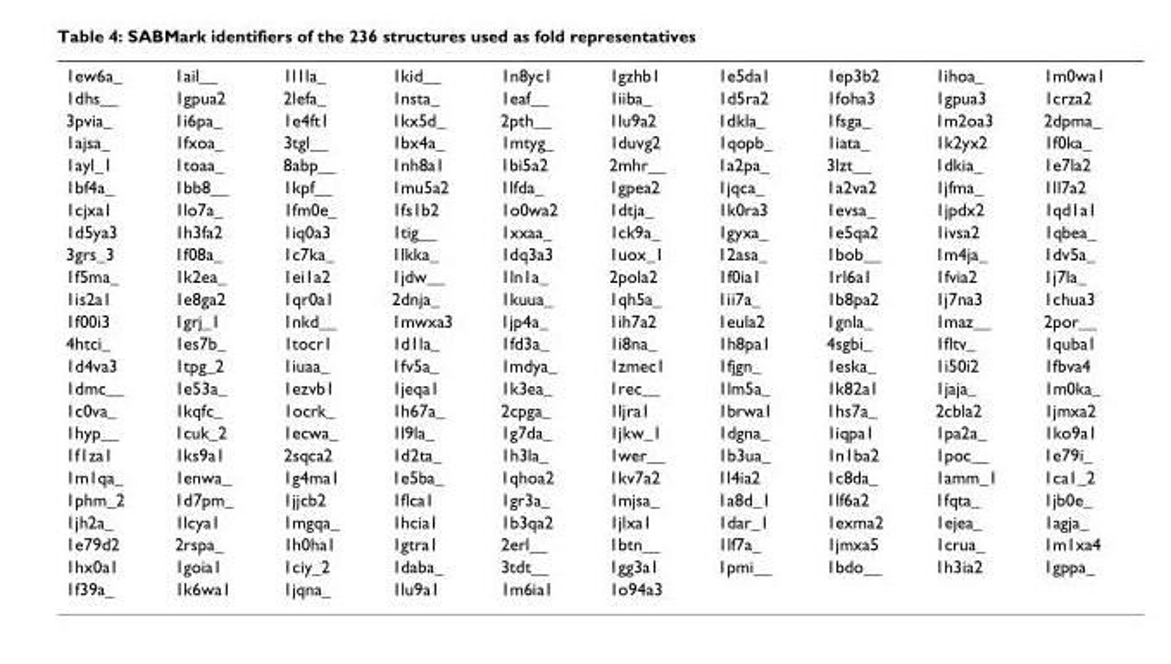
<table><tbody><tr><td>1ew6a_</td><td>1ail__</td><td>1l1la_</td><td>1kid__</td><td>1n8yc1</td><td>1gzhb1</td><td>1e5da1</td><td>1ep3b2</td><td>1ihoa_</td><td>1m0wa1</td></tr><tr><td>1dhs__</td><td>1gpua2</td><td>2lefa_</td><td>1nsta_</td><td>1eaf__</td><td>1iiba_</td><td>1d5ra2</td><td>1foha3</td><td>1gpua3</td><td>1crza2</td></tr><tr><td>3pvia_</td><td>1i6pa_</td><td>1e4ft1</td><td>1kx5d_</td><td>2pth__</td><td>1lu9a2</td><td>1dkla_</td><td>1fsga_</td><td>1m2oa3</td><td>2dpma_</td></tr><tr><td>1ajsa_</td><td>1fxoa_</td><td>3tgl__</td><td>1bx4a_</td><td>1mtyg_</td><td>1duvg2</td><td>1qopb_</td><td>1iata_</td><td>1k2yx2</td><td>1f0ka_</td></tr><tr><td>1ayl_1</td><td>1toaa_</td><td>8abp__</td><td>1nh8a1</td><td>1bi5a2</td><td>2mhr__</td><td>1a2pa_</td><td>3lzt__</td><td>1dkia_</td><td>1e7la2</td></tr><tr><td>1bf4a_</td><td>1bb8__</td><td>1kpf__</td><td>1mu5a2</td><td>1lfda_</td><td>1gpea2</td><td>1jqca_</td><td>1a2va2</td><td>1jfma_</td><td>1ll7a2</td></tr><tr><td>1cjxa1</td><td>1lo7a_</td><td>1fm0e_</td><td>1fs1b2</td><td>1o0wa2</td><td>1dtja_</td><td>1k0ra3</td><td>1evsa_</td><td>1jpdx2</td><td>1qd1a1</td></tr><tr><td>1d5ya3</td><td>1h3fa2</td><td>1iq0a3</td><td>1tig__</td><td>1xxaa_</td><td>1ck9a_</td><td>1gyxa_</td><td>1e5qa2</td><td>1ivsa2</td><td>1qbea_</td></tr><tr><td>3grs_3</td><td>1f08a_</td><td>1c7ka_</td><td>1lkka_</td><td>1dq3a3</td><td>1uox_1</td><td>12asa_</td><td>1bob__</td><td>1m4ja_</td><td>1dv5a_</td></tr><tr><td>1f5ma_</td><td>1k2ea_</td><td>1ei1a2</td><td>1jdw__</td><td>1ln1a_</td><td>2pola2</td><td>1f0ia1</td><td>1rl6a1</td><td>1fvia2</td><td>1j7la_</td></tr><tr><td>1is2a1</td><td>1e8ga2</td><td>1qr0a1</td><td>2dnja_</td><td>1kuua_</td><td>1qh5a_</td><td>1ii7a_</td><td>1b8pa2</td><td>1j7na3</td><td>1chua3</td></tr><tr><td>1f00i3</td><td>1grj_1</td><td>1nkd__</td><td>1mwxa3</td><td>1jp4a_</td><td>1ih7a2</td><td>1eula2</td><td>1gnla_</td><td>1maz__</td><td>2por__</td></tr><tr><td>4htci_</td><td>1es7b_</td><td>1tocr1</td><td>1d1la_</td><td>1fd3a_</td><td>1i8na_</td><td>1h8pa1</td><td>4sgbi_</td><td>1fltv_</td><td>1quba1</td></tr><tr><td>1d4va3</td><td>1tpg_2</td><td>1iuaa_</td><td>1fv5a_</td><td>1mdya_</td><td>1zmec1</td><td>1fjgn_</td><td>1eska_</td><td>1i50i2</td><td>1fbva4</td></tr><tr><td>1dmc__</td><td>1e53a_</td><td>1ezvb1</td><td>1jeqa1</td><td>1k3ea_</td><td>1rec__</td><td>1lm5a_</td><td>1k82a1</td><td>1jaja_</td><td>1m0ka_</td></tr><tr><td>1c0va_</td><td>1kqfc_</td><td>1ocrk_</td><td>1h67a_</td><td>2cpga_</td><td>1ljra1</td><td>1brwa1</td><td>1hs7a_</td><td>2cbla2</td><td>1jmxa2</td></tr><tr><td>1hyp__</td><td>1cuk_2</td><td>1ecwa_</td><td>1l9la_</td><td>1g7da_</td><td>1jkw_1</td><td>1dgna_</td><td>1iqpa1</td><td>1pa2a_</td><td>1ko9a1</td></tr><tr><td>1f1za1</td><td>1ks9a1</td><td>2sqca2</td><td>1d2ta_</td><td>1h3la_</td><td>1wer__</td><td>1b3ua_</td><td>1n1ba2</td><td>1poc__</td><td>1e79i_</td></tr><tr><td>1m1qa_</td><td>1enwa_</td><td>1g4ma1</td><td>1e5ba_</td><td>1qhoa2</td><td>1kv7a2</td><td>1l4ia2</td><td>1c8da_</td><td>1amm_1</td><td>1ca1_2</td></tr><tr><td>1phm_2</td><td>1d7pm_</td><td>1jjcb2</td><td>1flca1</td><td>1gr3a_</td><td>1mjsa_</td><td>1a8d_1</td><td>1lf6a2</td><td>1fqta_</td><td>1jb0e_</td></tr><tr><td>1jh2a_</td><td>1lcya1</td><td>1mgqa_</td><td>1hcia1</td><td>1b3qa2</td><td>1jlxa1</td><td>1dar_1</td><td>1exma2</td><td>1ejea_</td><td>1agja_</td></tr><tr><td>1e79d2</td><td>2rspa_</td><td>1h0ha1</td><td>1gtra1</td><td>2erl__</td><td>1btn__</td><td>1lf7a_</td><td>1jmxa5</td><td>1crua_</td><td>1m1xa4</td></tr><tr><td>1hx0a1</td><td>1goia1</td><td>1ciy_2</td><td>1daba_</td><td>3tdt__</td><td>1gg3a1</td><td>1pmi__</td><td>1bdo__</td><td>1h3ia2</td><td>1gppa_</td></tr><tr><td>1f39a_</td><td>1k6wa1</td><td>1jqna_</td><td>1lu9a1</td><td>1m6ia1</td><td>1o94a3</td><td></td><td></td><td></td><td></td></tr></tbody></table>